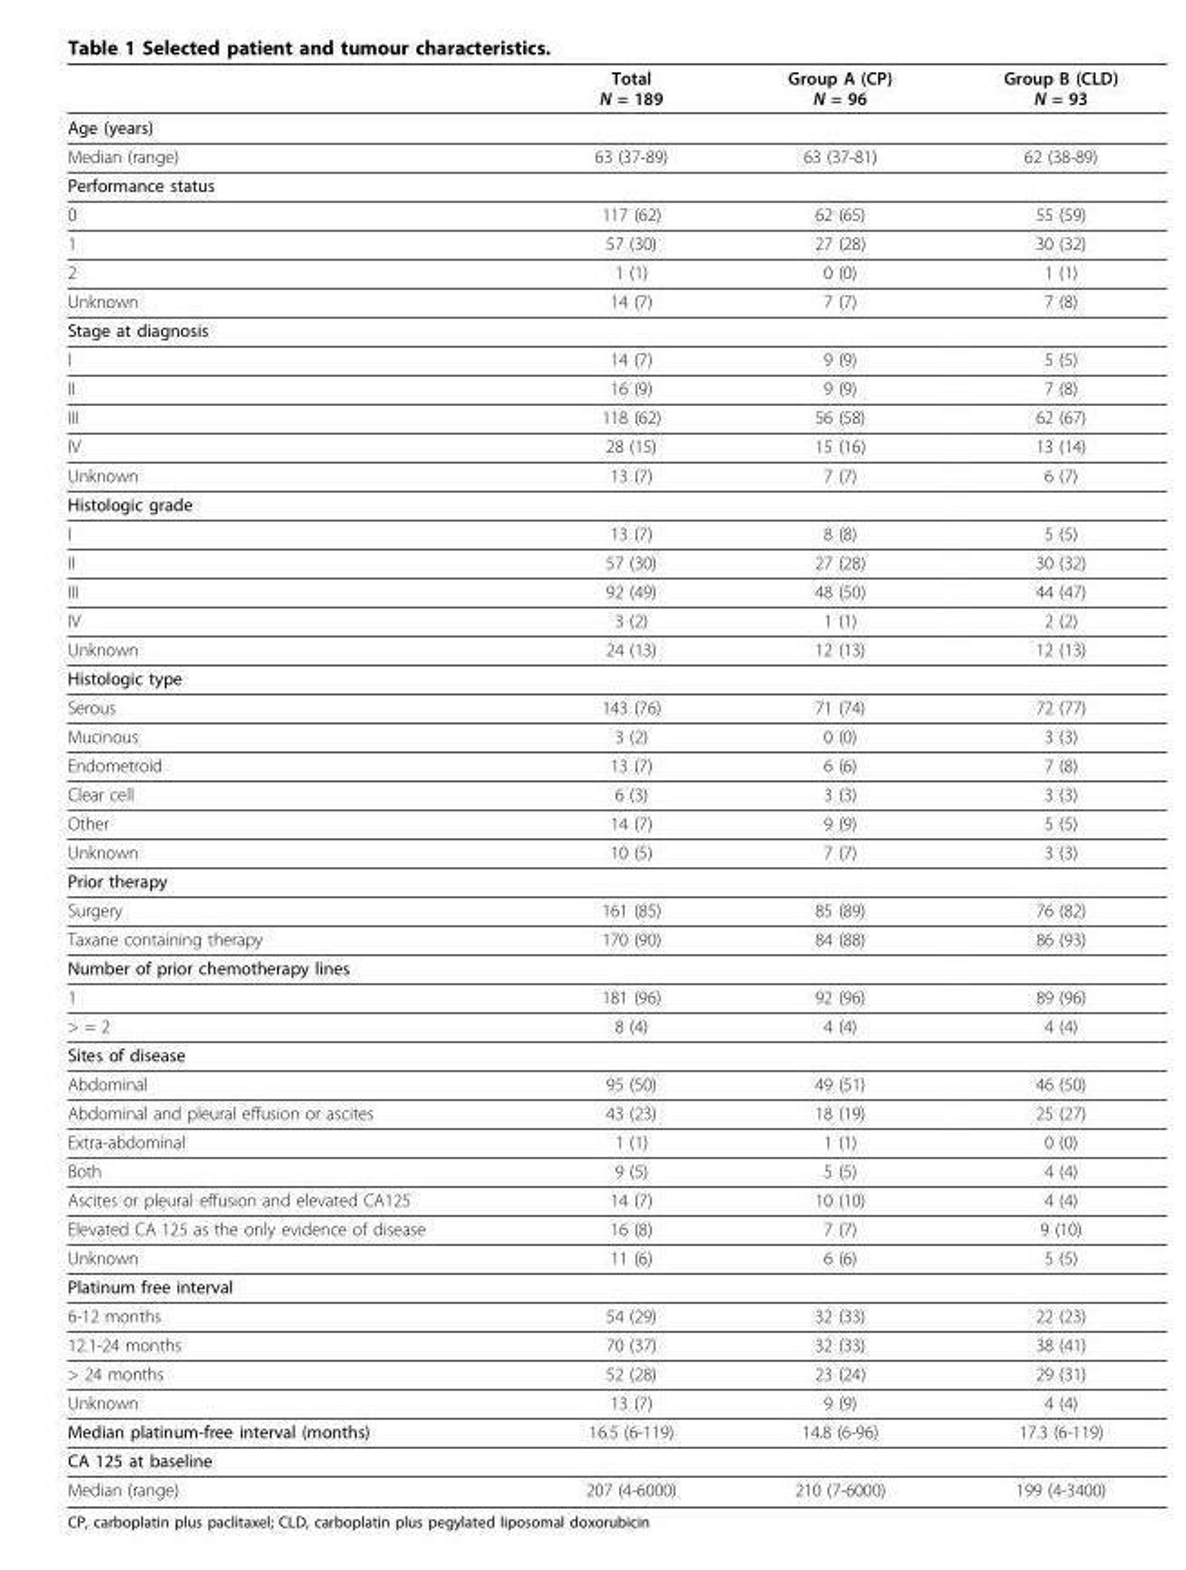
<table><thead><tr><td></td><td>Total N = 189</td><td>Group A (CP) N = 96</td><td>Group B (CLD) N = 93</td></tr></thead><tbody><tr><td colspan="4">Age (years)</td></tr><tr><td>Median (range)</td><td>63 (37-89)</td><td>63 (37-81)</td><td>62 (38-89)</td></tr><tr><td colspan="4">Performance status</td></tr><tr><td>0</td><td>117 (62)</td><td>62 (65)</td><td>55 (59)</td></tr><tr><td>1</td><td>57 (30)</td><td>27 (28)</td><td>30 (32)</td></tr><tr><td>2</td><td>1 (1)</td><td>0 (0)</td><td>1 (1)</td></tr><tr><td>Unknown</td><td>14 (7)</td><td>7 (7)</td><td>7 (8)</td></tr><tr><td colspan="4">Stage at diagnosis</td></tr><tr><td>I</td><td>14 (7)</td><td>9 (9)</td><td>5 (5)</td></tr><tr><td>II</td><td>16 (9)</td><td>9 (9)</td><td>7 (8)</td></tr><tr><td>III</td><td>118 (62)</td><td>56 (58)</td><td>62 (67)</td></tr><tr><td>IV</td><td>28 (15)</td><td>15 (16)</td><td>13 (14)</td></tr><tr><td>Unknown</td><td>13 (7)</td><td>7 (7)</td><td>6 (7)</td></tr><tr><td colspan="4">Histologic grade</td></tr><tr><td>I</td><td>13 (7)</td><td>8 (8)</td><td>5 (5)</td></tr><tr><td>II</td><td>57 (30)</td><td>27 (28)</td><td>30 (32)</td></tr><tr><td>III</td><td>92 (49)</td><td>48 (50)</td><td>44 (47)</td></tr><tr><td>IV</td><td>3 (2)</td><td>1 (1)</td><td>2 (2)</td></tr><tr><td>Unknown</td><td>24 (13)</td><td>12 (13)</td><td>12 (13)</td></tr><tr><td colspan="4">Histologic type</td></tr><tr><td>Serous</td><td>143 (76)</td><td>71 (74)</td><td>72 (77)</td></tr><tr><td>Mucinous</td><td>3 (2)</td><td>0 (0)</td><td>3 (3)</td></tr><tr><td>Endometroid</td><td>13 (7)</td><td>6 (6)</td><td>7 (8)</td></tr><tr><td>Clear cell</td><td>6 (3)</td><td>3 (3)</td><td>3 (3)</td></tr><tr><td>Other</td><td>14 (7)</td><td>9 (9)</td><td>5 (5)</td></tr><tr><td>Unknown</td><td>10 (5)</td><td>7 (7)</td><td>3 (3)</td></tr><tr><td colspan="4">Prior therapy</td></tr><tr><td>Surgery</td><td>161 (85)</td><td>85 (89)</td><td>76 (82)</td></tr><tr><td>Taxane containing therapy</td><td>170 (90)</td><td>84 (88)</td><td>86 (93)</td></tr><tr><td colspan="4">Number of prior chemotherapy lines</td></tr><tr><td>1</td><td>181 (96)</td><td>92 (96)</td><td>89 (96)</td></tr><tr><td>&gt; = 2</td><td>8 (4)</td><td>4 (4)</td><td>4 (4)</td></tr><tr><td colspan="4">Sites of disease</td></tr><tr><td>Abdominal</td><td>95 (50)</td><td>49 (51)</td><td>46 (50)</td></tr><tr><td>Abdominal and pleural effusion or ascites</td><td>43 (23)</td><td>18 (19)</td><td>25 (27)</td></tr><tr><td>Extra-abdominal</td><td>1 (1)</td><td>1 (1)</td><td>0 (0)</td></tr><tr><td>Both</td><td>9 (5)</td><td>5 (5)</td><td>4 (4)</td></tr><tr><td>Ascites or pleural effusion and elevated CA125</td><td>14 (7)</td><td>10 (10)</td><td>4 (4)</td></tr><tr><td>Elevated CA 125 as the only evidence of disease</td><td>16 (8)</td><td>7 (7)</td><td>9 (10)</td></tr><tr><td>Unknown</td><td>11 (6)</td><td>6 (6)</td><td>5 (5)</td></tr><tr><td colspan="4">Platinum free interval</td></tr><tr><td>6-12 months</td><td>54 (29)</td><td>32 (33)</td><td>22 (23)</td></tr><tr><td>12.1-24 months</td><td>70 (37)</td><td>32 (33)</td><td>38 (41)</td></tr><tr><td>&gt; 24 months</td><td>52 (28)</td><td>23 (24)</td><td>29 (31)</td></tr><tr><td>Unknown</td><td>13 (7)</td><td>9 (9)</td><td>4 (4)</td></tr><tr><td>Median platinum-free interval (months)</td><td>16.5 (6-119)</td><td>14.8 (6-96)</td><td>17.3 (6-119)</td></tr><tr><td colspan="4">CA 125 at baseline</td></tr><tr><td>Median (range)</td><td>207 (4-6000)</td><td>210 (7-6000)</td><td>199 (4-3400)</td></tr></tbody></table>